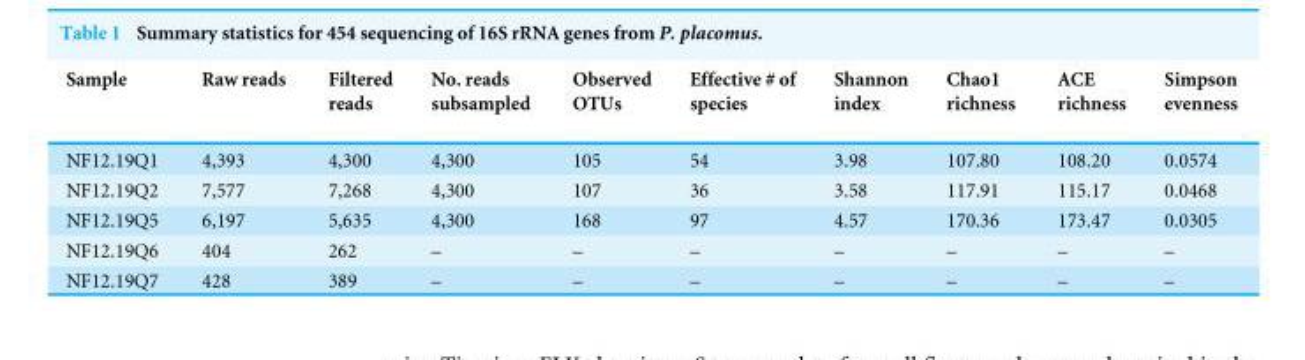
<table><thead><tr><td>Sample</td><td>Raw reads</td><td>Filtered reads</td><td>No. reads subsampled</td><td>Observed OTUs</td><td>Effective # of species</td><td>Shannon index</td><td>Chao1 richness</td><td>ACE richness</td><td>Simpson evenness</td></tr></thead><tbody><tr><td>NF12.19Q1</td><td>4,393</td><td>4,300</td><td>4,300</td><td>105</td><td>54</td><td>3.98</td><td>107.80</td><td>108.20</td><td>0.0574</td></tr><tr><td>NF12.19Q2</td><td>7,577</td><td>7,268</td><td>4,300</td><td>107</td><td>36</td><td>3.58</td><td>117.91</td><td>115.17</td><td>0.0468</td></tr><tr><td>NF12.19Q5</td><td>6,197</td><td>5,635</td><td>4,300</td><td>168</td><td>97</td><td>4.57</td><td>170.36</td><td>173.47</td><td>0.0305</td></tr><tr><td>NF12.19Q6</td><td>404</td><td>262</td><td>–</td><td>–</td><td>–</td><td>–</td><td>–</td><td>–</td><td>–</td></tr><tr><td>NF12.19Q7</td><td>428</td><td>389</td><td>–</td><td>–</td><td>–</td><td>–</td><td>–</td><td>–</td><td>–</td></tr></tbody></table>